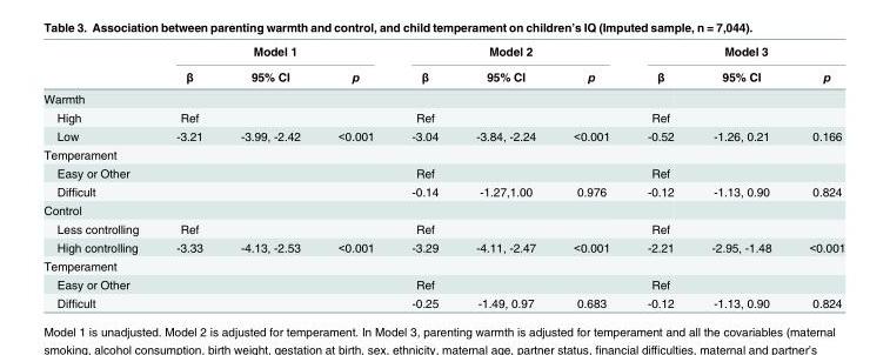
<table><thead><tr><td rowspan="2"></td><td colspan="3">Model 1</td><td colspan="3">Model 2</td><td colspan="3">Model 3</td></tr><tr><td>β</td><td>95% CI</td><td>p</td><td>β</td><td>95% CI</td><td>p</td><td>β</td><td>95% CI</td><td>p</td></tr></thead><tbody><tr><td colspan="10">Warmth</td></tr><tr><td>High</td><td>Ref</td><td></td><td></td><td>Ref</td><td></td><td></td><td>Ref</td><td></td><td></td></tr><tr><td>Low</td><td>-3.21</td><td>-3.99, -2.42</td><td>&lt;0.001</td><td>-3.04</td><td>-3.84, -2.24</td><td>&lt;0.001</td><td>-0.52</td><td>-1.26, 0.21</td><td>0.166</td></tr><tr><td colspan="10">Temperament</td></tr><tr><td>Easy or Other</td><td></td><td></td><td></td><td>Ref</td><td></td><td></td><td>Ref</td><td></td><td></td></tr><tr><td>Difficult</td><td></td><td></td><td></td><td>-0.14</td><td>-1.27,1.00</td><td>0.976</td><td>-0.12</td><td>-1.13, 0.90</td><td>0.824</td></tr><tr><td colspan="10">Control</td></tr><tr><td>Less controlling</td><td>Ref</td><td></td><td></td><td>Ref</td><td></td><td></td><td>Ref</td><td></td><td></td></tr><tr><td>High controlling</td><td>-3.33</td><td>-4.13, -2.53</td><td>&lt;0.001</td><td>-3.29</td><td>-4.11, -2.47</td><td>&lt;0.001</td><td>-2.21</td><td>-2.95, -1.48</td><td>&lt;0.001</td></tr><tr><td colspan="10">Temperament</td></tr><tr><td>Easy or Other</td><td></td><td></td><td></td><td>Ref</td><td></td><td></td><td>Ref</td><td></td><td></td></tr><tr><td>Difficult</td><td></td><td></td><td></td><td>-0.25</td><td>-1.49, 0.97</td><td>0.683</td><td>-0.12</td><td>-1.13, 0.90</td><td>0.824</td></tr></tbody></table>